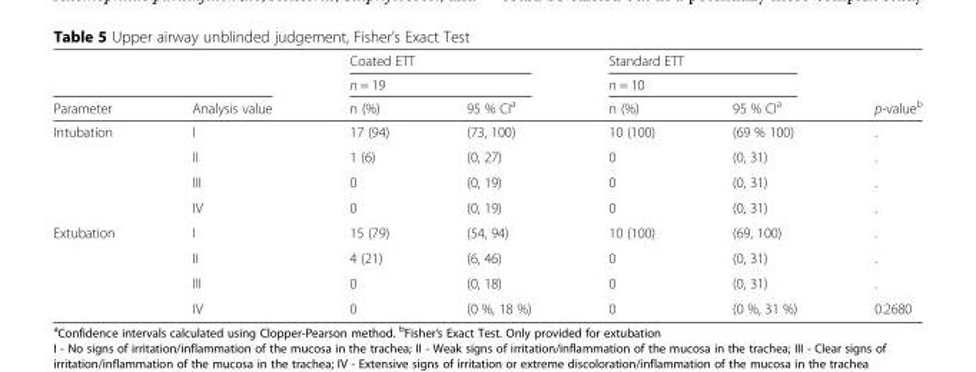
<table><thead><tr><td rowspan="3">Parameter</td><td rowspan="3">Analysis value</td><td rowspan="2" colspan="2">Coated ETT n = 19</td><td rowspan="2" colspan="2">Standard ETT n = 10</td><td rowspan="3">p-value<sup>b</sup></td></tr><tr></tr><tr><td>n (%)</td><td>95 % CI<sup>a</sup></td><td>n (%)</td><td>95 % CI<sup>a</sup></td></tr></thead><tbody><tr><td rowspan="4">Intubation</td><td>I</td><td>17 (94)</td><td>(73, 100)</td><td>10 (100)</td><td>(69 % 100)</td><td>.</td></tr><tr><td>II</td><td>1 (6)</td><td>(0, 27)</td><td>0</td><td>(0, 31)</td><td>.</td></tr><tr><td>III</td><td>0</td><td>(0, 19)</td><td>0</td><td>(0, 31)</td><td>.</td></tr><tr><td>IV</td><td>0</td><td>(0, 19)</td><td>0</td><td>(0, 31)</td><td>.</td></tr><tr><td rowspan="4">Extubation</td><td>I</td><td>15 (79)</td><td>(54, 94)</td><td>10 (100)</td><td>(69, 100)</td><td>.</td></tr><tr><td>II</td><td>4 (21)</td><td>(6, 46)</td><td>0</td><td>(0, 31)</td><td>.</td></tr><tr><td>III</td><td>0</td><td>(0, 18)</td><td>0</td><td>(0, 31)</td><td>.</td></tr><tr><td>IV</td><td>0</td><td>(0 %, 18 %)</td><td>0</td><td>(0 %, 31 %)</td><td>0.2680</td></tr></tbody></table>